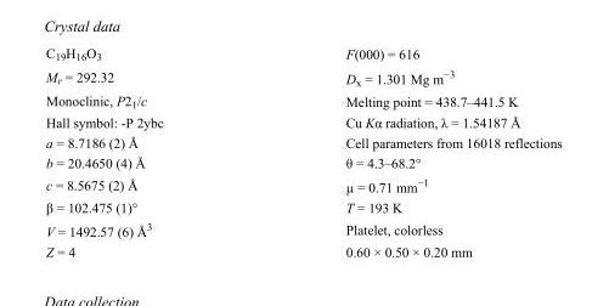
<table><tbody><tr><td>C<sub>19</sub>H<sub>16</sub>O<sub>3</sub></td><td>F(000) = 616</td></tr><tr><td>M<sub>r</sub> = 292.32</td><td>D<sub>x</sub> = 1.301 Mg m<sup>−3</sup></td></tr><tr><td>Monoclinic, P2<sub>1</sub>/c</td><td>Melting point = 438.7–441.5 K</td></tr><tr><td>Hall symbol: -P 2ybc</td><td>Cu Kα radiation, λ = 1.54187 Å</td></tr><tr><td>a = 8.7186 (2) Å</td><td>Cell parameters from 16018 reflections</td></tr><tr><td>b = 20.4650 (4) Å</td><td>θ = 4.3–68.2°</td></tr><tr><td>c = 8.5675 (2) Å</td><td>µ = 0.71 mm<sup>−1</sup></td></tr><tr><td>β = 102.475 (1)°</td><td>T = 193 K</td></tr><tr><td>V = 1492.57 (6) Å<sup>3</sup></td><td>Platelet, colorless</td></tr><tr><td>Z = 4</td><td>0.60 × 0.50 × 0.20 mm</td></tr></tbody></table>